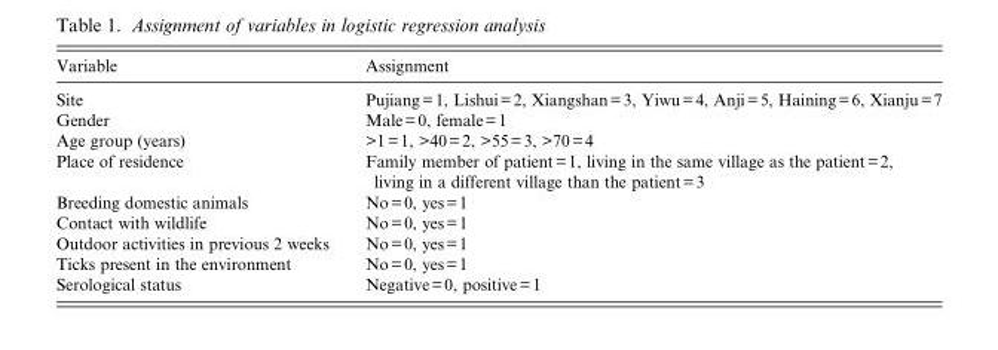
<table><thead><tr><td>Variable</td><td>Assignment</td></tr></thead><tbody><tr><td>Site</td><td>Pujiang=1, Lishui=2, Xiangshan=3, Yiwu=4, Anji=5, Haining=6, Xianju=7</td></tr><tr><td>Gender</td><td>Male=0, female=1</td></tr><tr><td>Age group (years)</td><td>&gt;1=1, &gt;40=2, &gt;55=3, &gt;70=4</td></tr><tr><td>Place of residence</td><td>Family member of patient=1, living in the same village as the patient=2, living in a different village than the patient=3</td></tr><tr><td>Breeding domestic animals</td><td>No=0, yes=1</td></tr><tr><td>Contact with wildlife</td><td>No=0, yes=1</td></tr><tr><td>Outdoor activities in previous 2 weeks</td><td>No=0, yes=1</td></tr><tr><td>Ticks present in the environment</td><td>No=0, yes=1</td></tr><tr><td>Serological status</td><td>Negative=0, positive=1</td></tr></tbody></table>